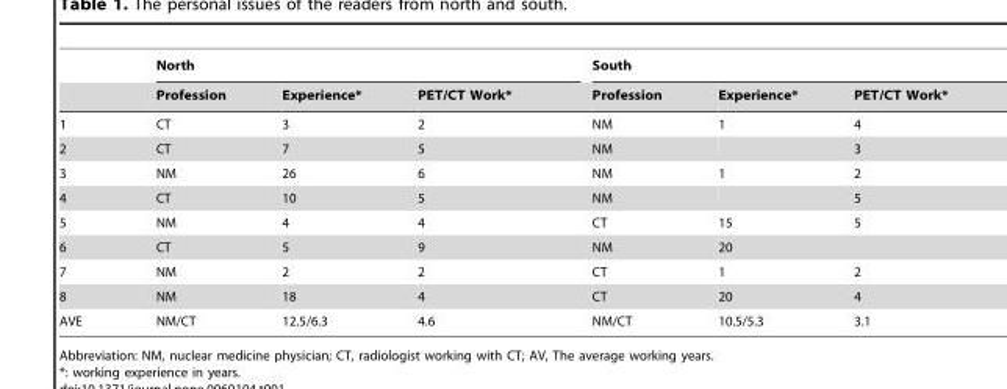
<table><thead><tr><td rowspan="2"></td><td colspan="3">North</td><td colspan="3">South</td></tr><tr><td>Profession</td><td>Experience*</td><td>PET/CT Work*</td><td>Profession</td><td>Experience*</td><td>PET/CT Work*</td></tr></thead><tbody><tr><td>1</td><td>CT</td><td>3</td><td>2</td><td>NM</td><td>1</td><td>4</td></tr><tr><td>2</td><td>CT</td><td>7</td><td>5</td><td>NM</td><td></td><td>3</td></tr><tr><td>3</td><td>NM</td><td>26</td><td>6</td><td>NM</td><td>1</td><td>2</td></tr><tr><td>4</td><td>CT</td><td>10</td><td>5</td><td>NM</td><td></td><td>5</td></tr><tr><td>5</td><td>NM</td><td>4</td><td>4</td><td>CT</td><td>15</td><td>5</td></tr><tr><td>6</td><td>CT</td><td>5</td><td>9</td><td>NM</td><td>20</td><td></td></tr><tr><td>7</td><td>NM</td><td>2</td><td>2</td><td>CT</td><td>1</td><td>2</td></tr><tr><td>8</td><td>NM</td><td>18</td><td>4</td><td>CT</td><td>20</td><td>4</td></tr><tr><td>AVE</td><td>NM/CT</td><td>12.5/6.3</td><td>4.6</td><td>NM/CT</td><td>10.5/5.3</td><td>3.1</td></tr></tbody></table>